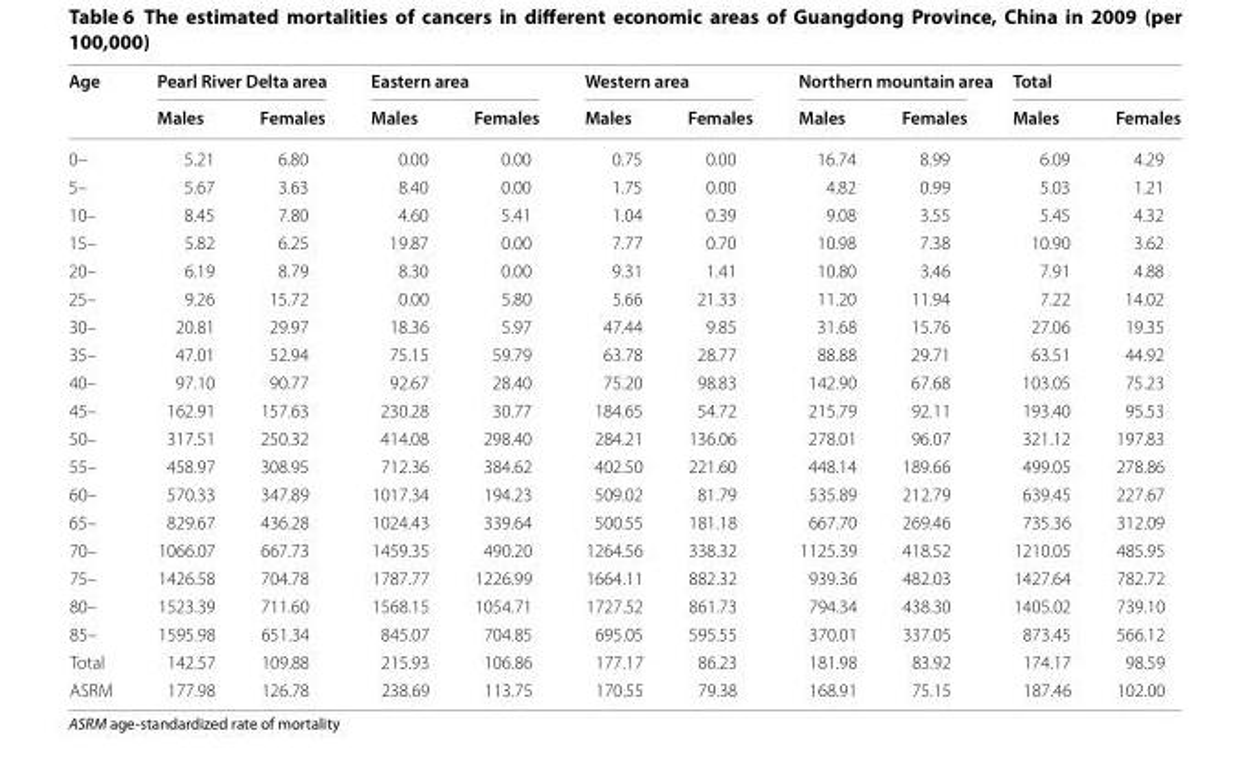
<table><thead><tr><td rowspan="2">Age</td><td colspan="2">Pearl River Delta area</td><td colspan="2">Eastern area</td><td colspan="2">Western area</td><td colspan="2">Northern mountain area</td><td colspan="2">Total</td></tr><tr><td>Males</td><td>Females</td><td>Males</td><td>Females</td><td>Males</td><td>Females</td><td>Males</td><td>Females</td><td>Males</td><td>Females</td></tr></thead><tbody><tr><td>0–</td><td>5.21</td><td>6.80</td><td>0.00</td><td>0.00</td><td>0.75</td><td>0.00</td><td>16.74</td><td>8.99</td><td>6.09</td><td>4.29</td></tr><tr><td>5–</td><td>5.67</td><td>3.63</td><td>8.40</td><td>0.00</td><td>1.75</td><td>0.00</td><td>4.82</td><td>0.99</td><td>5.03</td><td>1.21</td></tr><tr><td>10–</td><td>8.45</td><td>7.80</td><td>4.60</td><td>5.41</td><td>1.04</td><td>0.39</td><td>9.08</td><td>3.55</td><td>5.45</td><td>4.32</td></tr><tr><td>15–</td><td>5.82</td><td>6.25</td><td>19.87</td><td>0.00</td><td>7.77</td><td>0.70</td><td>10.98</td><td>7.38</td><td>10.90</td><td>3.62</td></tr><tr><td>20–</td><td>6.19</td><td>8.79</td><td>8.30</td><td>0.00</td><td>9.31</td><td>1.41</td><td>10.80</td><td>3.46</td><td>7.91</td><td>4.88</td></tr><tr><td>25–</td><td>9.26</td><td>15.72</td><td>0.00</td><td>5.80</td><td>5.66</td><td>21.33</td><td>11.20</td><td>11.94</td><td>7.22</td><td>14.02</td></tr><tr><td>30–</td><td>20.81</td><td>29.97</td><td>18.36</td><td>5.97</td><td>47.44</td><td>9.85</td><td>31.68</td><td>15.76</td><td>27.06</td><td>19.35</td></tr><tr><td>35–</td><td>47.01</td><td>52.94</td><td>75.15</td><td>59.79</td><td>63.78</td><td>28.77</td><td>88.88</td><td>29.71</td><td>63.51</td><td>44.92</td></tr><tr><td>40–</td><td>97.10</td><td>90.77</td><td>92.67</td><td>28.40</td><td>75.20</td><td>98.83</td><td>142.90</td><td>67.68</td><td>103.05</td><td>75.23</td></tr><tr><td>45–</td><td>162.91</td><td>157.63</td><td>230.28</td><td>30.77</td><td>184.65</td><td>54.72</td><td>215.79</td><td>92.11</td><td>193.40</td><td>95.53</td></tr><tr><td>50–</td><td>317.51</td><td>250.32</td><td>414.08</td><td>298.40</td><td>284.21</td><td>136.06</td><td>278.01</td><td>96.07</td><td>321.12</td><td>197.83</td></tr><tr><td>55–</td><td>458.97</td><td>308.95</td><td>712.36</td><td>384.62</td><td>402.50</td><td>221.60</td><td>448.14</td><td>189.66</td><td>499.05</td><td>278.86</td></tr><tr><td>60–</td><td>570.33</td><td>347.89</td><td>1017.34</td><td>194.23</td><td>509.02</td><td>81.79</td><td>535.89</td><td>212.79</td><td>639.45</td><td>227.67</td></tr><tr><td>65–</td><td>829.67</td><td>436.28</td><td>1024.43</td><td>339.64</td><td>500.55</td><td>181.18</td><td>667.70</td><td>269.46</td><td>735.36</td><td>312.09</td></tr><tr><td>70–</td><td>1066.07</td><td>667.73</td><td>1459.35</td><td>490.20</td><td>1264.56</td><td>338.32</td><td>1125.39</td><td>418.52</td><td>1210.05</td><td>485.95</td></tr><tr><td>75–</td><td>1426.58</td><td>704.78</td><td>1787.77</td><td>1226.99</td><td>1664.11</td><td>882.32</td><td>939.36</td><td>482.03</td><td>1427.64</td><td>782.72</td></tr><tr><td>80–</td><td>1523.39</td><td>711.60</td><td>1568.15</td><td>1054.71</td><td>1727.52</td><td>861.73</td><td>794.34</td><td>438.30</td><td>1405.02</td><td>739.10</td></tr><tr><td>85–</td><td>1595.98</td><td>651.34</td><td>845.07</td><td>704.85</td><td>695.05</td><td>595.55</td><td>370.01</td><td>337.05</td><td>873.45</td><td>566.12</td></tr><tr><td>Total</td><td>142.57</td><td>109.88</td><td>215.93</td><td>106.86</td><td>177.17</td><td>86.23</td><td>181.98</td><td>83.92</td><td>174.17</td><td>98.59</td></tr><tr><td>ASRM</td><td>177.98</td><td>126.78</td><td>238.69</td><td>113.75</td><td>170.55</td><td>79.38</td><td>168.91</td><td>75.15</td><td>187.46</td><td>102.00</td></tr></tbody></table>